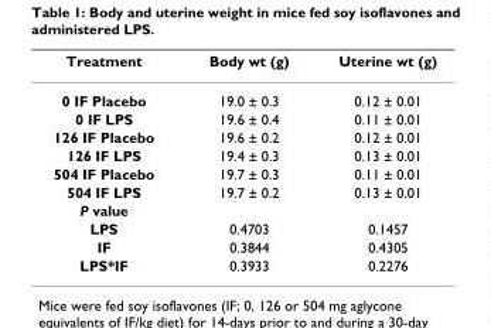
<table><thead><tr><td>Treatment</td><td>Body wt (g)</td><td>Uterine wt (g)</td></tr></thead><tbody><tr><td>0 IF Placebo</td><td>19.0 ± 0.3</td><td>0.12 ± 0.01</td></tr><tr><td>0 IF LPS</td><td>19.6 ± 0.4</td><td>0.11 ± 0.01</td></tr><tr><td>126 IF Placebo</td><td>19.6 ± 0.2</td><td>0.12 ± 0.01</td></tr><tr><td>126 IF LPS</td><td>19.4 ± 0.3</td><td>0.13 ± 0.01</td></tr><tr><td>504 IF Placebo</td><td>19.7 ± 0.3</td><td>0.11 ± 0.01</td></tr><tr><td>504 IF LPS</td><td>19.7 ± 0.2</td><td>0.13 ± 0.01</td></tr><tr><td colspan="3">P value</td></tr><tr><td>LPS</td><td>0.4703</td><td>0.1457</td></tr><tr><td>IF</td><td>0.3844</td><td>0.4305</td></tr><tr><td>LPS*IF</td><td>0.3933</td><td>0.2276</td></tr></tbody></table>